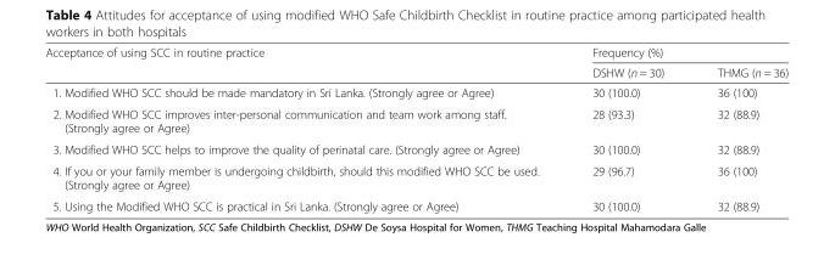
<table><thead><tr><td rowspan="2">Acceptance of using SCC in routine practice</td><td colspan="2">Frequency (%)</td></tr><tr><td>DSHW (n = 30)</td><td>THMG (n = 36)</td></tr></thead><tbody><tr><td>1. Modified WHO SCC should be made mandatory in Sri Lanka. (Strongly agree or Agree)</td><td>30 (100.0)</td><td>36 (100)</td></tr><tr><td>2. Modified WHO SCC improves inter-personal communication and team work among staff. (Strongly agree or Agree)</td><td>28 (93.3)</td><td>32 (88.9)</td></tr><tr><td>3. Modified WHO SCC helps to improve the quality of perinatal care. (Strongly agree or Agree)</td><td>30 (100.0)</td><td>32 (88.9)</td></tr><tr><td>4. If you or your family member is undergoing childbirth, should this modified WHO SCC be used. (Strongly agree or Agree)</td><td>29 (96.7)</td><td>36 (100)</td></tr><tr><td>5. Using the Modified WHO SCC is practical in Sri Lanka. (Strongly agree or Agree)</td><td>30 (100.0)</td><td>32 (88.9)</td></tr></tbody></table>